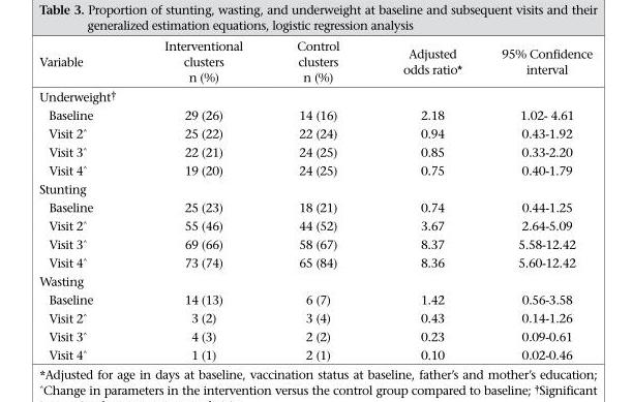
<table><thead><tr><td>Variable</td><td>Interventional clusters n (%)</td><td>Control clusters n (%)</td><td>Adjusted odds ratio*</td><td>95% Confidence interval</td></tr></thead><tbody><tr><td colspan="5">Underweight†</td></tr><tr><td>Baseline</td><td>29 (26)</td><td>14 (16)</td><td>2.18</td><td>1.02- 4.61</td></tr><tr><td>Visit 2^</td><td>25 (22)</td><td>22 (24)</td><td>0.94</td><td>0.43-1.92</td></tr><tr><td>Visit 3^</td><td>22 (21)</td><td>24 (25)</td><td>0.85</td><td>0.33-2.20</td></tr><tr><td>Visit 4^</td><td>19 (20)</td><td>24 (25)</td><td>0.75</td><td>0.40-1.79</td></tr><tr><td colspan="5">Stunting</td></tr><tr><td>Baseline</td><td>25 (23)</td><td>18 (21)</td><td>0.74</td><td>0.44-1.25</td></tr><tr><td>Visit 2^</td><td>55 (46)</td><td>44 (52)</td><td>3.67</td><td>2.64-5.09</td></tr><tr><td>Visit 3^</td><td>69 (66)</td><td>58 (67)</td><td>8.37</td><td>5.58-12.42</td></tr><tr><td>Visit 4^</td><td>73 (74)</td><td>65 (84)</td><td>8.36</td><td>5.60-12.42</td></tr><tr><td colspan="5">Wasting</td></tr><tr><td>Baseline</td><td>14 (13)</td><td>6 (7)</td><td>1.42</td><td>0.56-3.58</td></tr><tr><td>Visit 2^</td><td>3 (2)</td><td>3 (4)</td><td>0.43</td><td>0.14-1.26</td></tr><tr><td>Visit 3^</td><td>4 (3)</td><td>2 (2)</td><td>0.23</td><td>0.09-0.61</td></tr><tr><td>Visit 4^</td><td>1 (1)</td><td>2 (1)</td><td>0.10</td><td>0.02-0.46</td></tr></tbody></table>